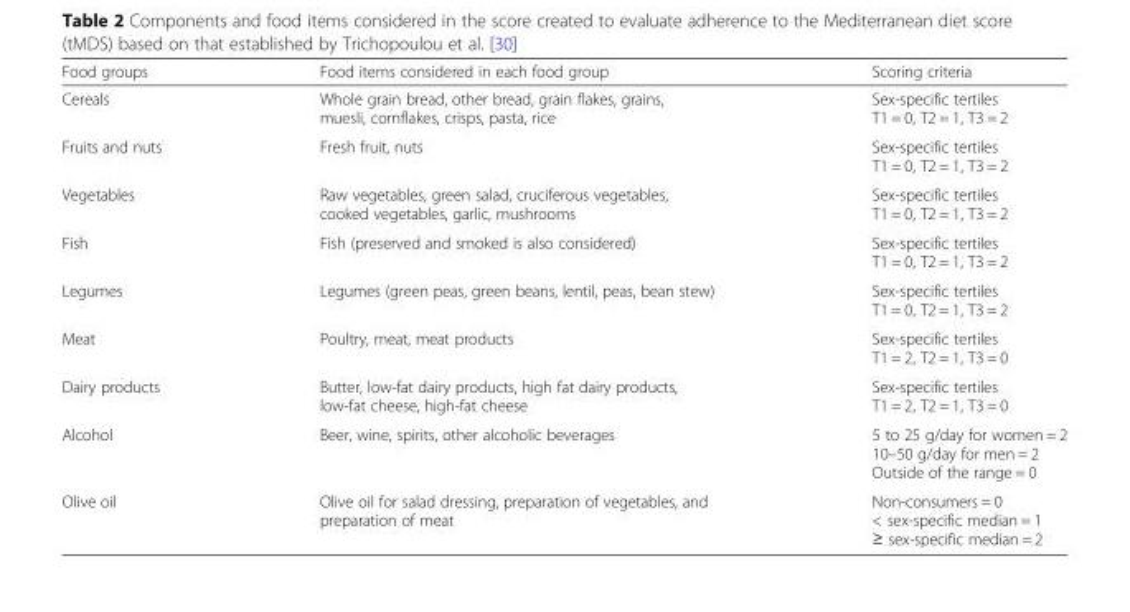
<table><thead><tr><td>Food groups</td><td>Food items considered in each food group</td><td>Scoring criteria</td></tr></thead><tbody><tr><td>Cereals</td><td>Whole grain bread, other bread, grain flakes, grains, muesli, cornflakes, crisps, pasta, rice</td><td>Sex-specific tertiles T1 = 0, T2 = 1, T3 = 2</td></tr><tr><td>Fruits and nuts</td><td>Fresh fruit, nuts</td><td>Sex-specific tertiles T1 = 0, T2 = 1, T3 = 2</td></tr><tr><td>Vegetables</td><td>Raw vegetables, green salad, cruciferous vegetables, cooked vegetables, garlic, mushrooms</td><td>Sex-specific tertiles T1 = 0, T2 = 1, T3 = 2</td></tr><tr><td>Fish</td><td>Fish (preserved and smoked is also considered)</td><td>Sex-specific tertiles T1 = 0, T2 = 1, T3 = 2</td></tr><tr><td>Legumes</td><td>Legumes (green peas, green beans, lentil, peas, bean stew)</td><td>Sex-specific tertiles T1 = 0, T2 = 1, T3 = 2</td></tr><tr><td>Meat</td><td>Poultry, meat, meat products</td><td>Sex-specific tertiles T1 = 2, T2 = 1, T3 = 0</td></tr><tr><td>Dairy products</td><td>Butter, low-fat dairy products, high fat dairy products, low-fat cheese, high-fat cheese</td><td>Sex-specific tertiles T1 = 2, T2 = 1, T3 = 0</td></tr><tr><td>Alcohol</td><td>Beer, wine, spirits, other alcoholic beverages</td><td>5 to 25 g/day for women = 2 10–50 g/day for men = 2 Outside of the range = 0</td></tr><tr><td>Olive oil</td><td>Olive oil for salad dressing, preparation of vegetables, and preparation of meat</td><td>Non-consumers = 0 &lt; sex-specific median = 1 ≥ sex-specific median = 2</td></tr></tbody></table>